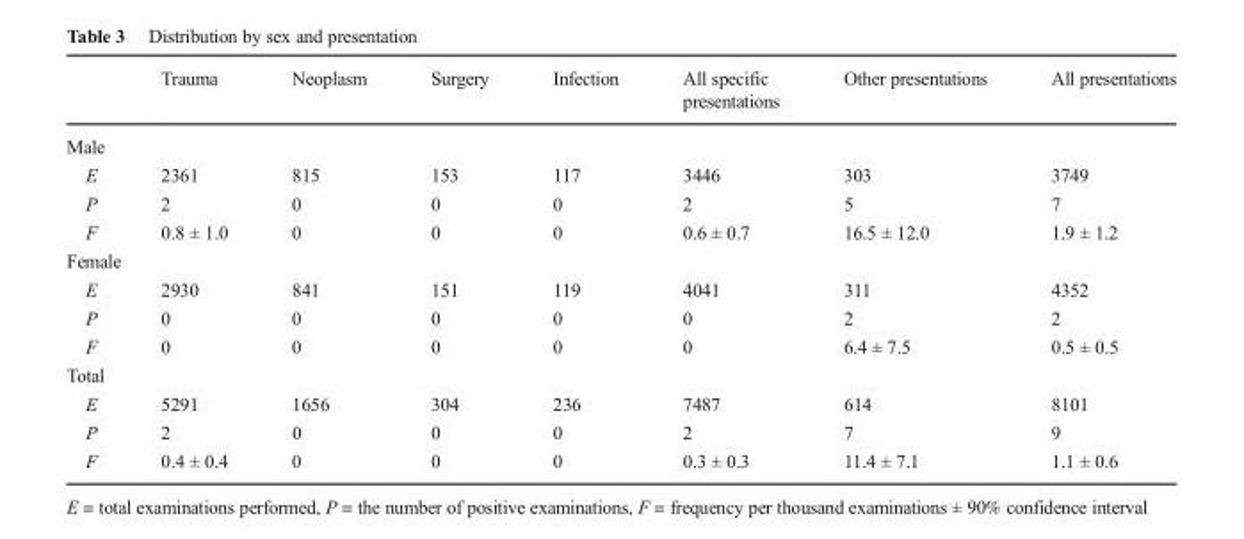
<table><thead><tr><td></td><td>Trauma</td><td>Neoplasm</td><td>Surgery</td><td>Infection</td><td>All specific presentations</td><td>Other presentations</td><td>All presentations</td></tr></thead><tbody><tr><td colspan="8">Male</td></tr><tr><td>E</td><td>2361</td><td>815</td><td>153</td><td>117</td><td>3446</td><td>303</td><td>3749</td></tr><tr><td>P</td><td>2</td><td>0</td><td>0</td><td>0</td><td>2</td><td>5</td><td>7</td></tr><tr><td>F</td><td>0.8 ± 1.0</td><td>0</td><td>0</td><td>0</td><td>0.6 ± 0.7</td><td>16.5 ± 12.0</td><td>1.9 ± 1.2</td></tr><tr><td colspan="8">Female</td></tr><tr><td>E</td><td>2930</td><td>841</td><td>151</td><td>119</td><td>4041</td><td>311</td><td>4352</td></tr><tr><td>P</td><td>0</td><td>0</td><td>0</td><td>0</td><td>0</td><td>2</td><td>2</td></tr><tr><td>F</td><td>0</td><td>0</td><td>0</td><td>0</td><td>0</td><td>6.4 ± 7.5</td><td>0.5 ± 0.5</td></tr><tr><td colspan="8">Total</td></tr><tr><td>E</td><td>5291</td><td>1656</td><td>304</td><td>236</td><td>7487</td><td>614</td><td>8101</td></tr><tr><td>P</td><td>2</td><td>0</td><td>0</td><td>0</td><td>2</td><td>7</td><td>9</td></tr><tr><td>F</td><td>0.4 ± 0.4</td><td>0</td><td>0</td><td>0</td><td>0.3 ± 0.3</td><td>11.4 ± 7.1</td><td>1.1 ± 0.6</td></tr></tbody></table>